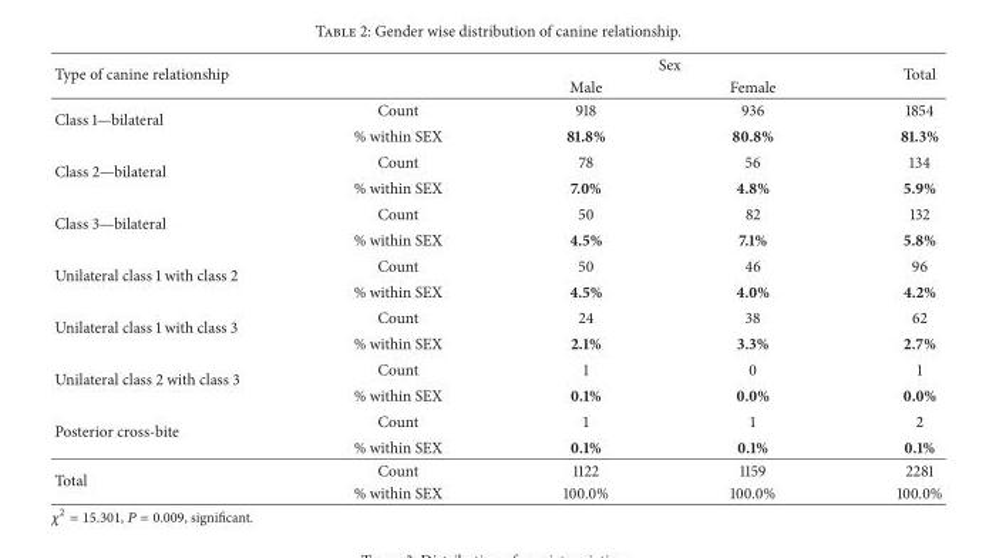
<table><thead><tr><td rowspan="2">Type of canine relationship</td><td rowspan="2"></td><td colspan="2">Sex</td><td rowspan="2">Total</td></tr><tr><td>Male</td><td>Female</td></tr></thead><tbody><tr><td rowspan="2">Class 1—bilateral</td><td>Count</td><td>918</td><td>936</td><td>1854</td></tr><tr><td>% within SEX</td><td>81.8%</td><td>80.8%</td><td>81.3%</td></tr><tr><td rowspan="2">Class 2—bilateral</td><td>Count</td><td>78</td><td>56</td><td>134</td></tr><tr><td>% within SEX</td><td>7.0%</td><td>4.8%</td><td>5.9%</td></tr><tr><td rowspan="2">Class 3—bilateral</td><td>Count</td><td>50</td><td>82</td><td>132</td></tr><tr><td>% within SEX</td><td>4.5%</td><td>7.1%</td><td>5.8%</td></tr><tr><td rowspan="2">Unilateral class 1 with class 2</td><td>Count</td><td>50</td><td>46</td><td>96</td></tr><tr><td>% within SEX</td><td>4.5%</td><td>4.0%</td><td>4.2%</td></tr><tr><td rowspan="2">Unilateral class 1 with class 3</td><td>Count</td><td>24</td><td>38</td><td>62</td></tr><tr><td>% within SEX</td><td>2.1%</td><td>3.3%</td><td>2.7%</td></tr><tr><td rowspan="2">Unilateral class 2 with class 3</td><td>Count</td><td>1</td><td>0</td><td>1</td></tr><tr><td>% within SEX</td><td>0.1%</td><td>0.0%</td><td>0.0%</td></tr><tr><td rowspan="2">Posterior cross-bite</td><td>Count</td><td>1</td><td>1</td><td>2</td></tr><tr><td>% within SEX</td><td>0.1%</td><td>0.1%</td><td>0.1%</td></tr><tr><td rowspan="2">Total</td><td>Count</td><td>1122</td><td>1159</td><td>2281</td></tr><tr><td>% within SEX</td><td>100.0%</td><td>100.0%</td><td>100.0%</td></tr></tbody></table>